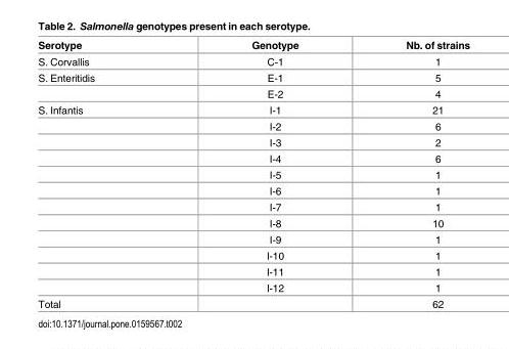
<table><thead><tr><td>Serotype</td><td>Genotype</td><td>Nb. of strains</td></tr></thead><tbody><tr><td>S. Corvallis</td><td>C-1</td><td>1</td></tr><tr><td rowspan="2">S. Enteritidis</td><td>E-1</td><td>5</td></tr><tr><td>E-2</td><td>4</td></tr><tr><td rowspan="12">S. Infantis</td><td>I-1</td><td>21</td></tr><tr><td>I-2</td><td>6</td></tr><tr><td>I-3</td><td>2</td></tr><tr><td>I-4</td><td>6</td></tr><tr><td>I-5</td><td>1</td></tr><tr><td>I-6</td><td>1</td></tr><tr><td>I-7</td><td>1</td></tr><tr><td>I-8</td><td>10</td></tr><tr><td>I-9</td><td>1</td></tr><tr><td>I-10</td><td>1</td></tr><tr><td>I-11</td><td>1</td></tr><tr><td>I-12</td><td>1</td></tr><tr><td>Total</td><td></td><td>62</td></tr></tbody></table>